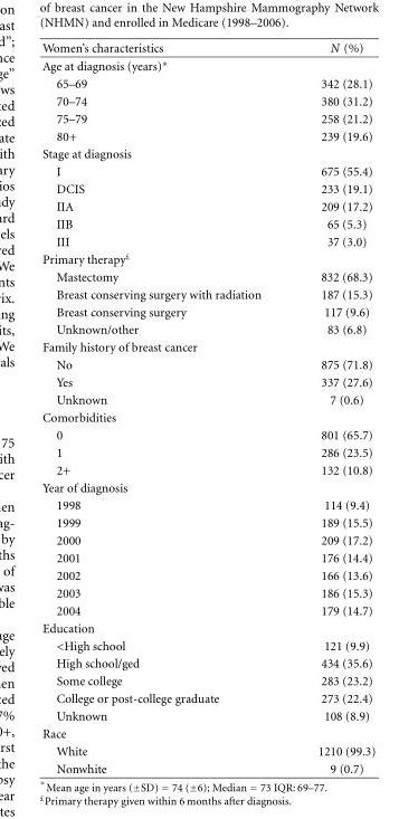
<table><thead><tr><td>Women’s characteristics</td><td>N (%)</td></tr></thead><tbody><tr><td colspan="2">Age at diagnosis (years)∗</td></tr><tr><td>65–69</td><td>342 (28.1)</td></tr><tr><td>70–74</td><td>380 (31.2)</td></tr><tr><td>75–79</td><td>258 (21.2)</td></tr><tr><td>80+</td><td>239 (19.6)</td></tr><tr><td colspan="2">Stage at diagnosis</td></tr><tr><td>I</td><td>675 (55.4)</td></tr><tr><td>DCIS</td><td>233 (19.1)</td></tr><tr><td>IIA</td><td>209 (17.2)</td></tr><tr><td>IIB</td><td>65 (5.3)</td></tr><tr><td>III</td><td>37 (3.0)</td></tr><tr><td colspan="2">Primary therapy<sup>£</sup></td></tr><tr><td>Mastectomy</td><td>832 (68.3)</td></tr><tr><td>Breast conserving surgery with radiation</td><td>187 (15.3)</td></tr><tr><td>Breast conserving surgery</td><td>117 (9.6)</td></tr><tr><td>Unknown/other</td><td>83 (6.8)</td></tr><tr><td colspan="2">Family history of breast cancer</td></tr><tr><td>No</td><td>875 (71.8)</td></tr><tr><td>Yes</td><td>337 (27.6)</td></tr><tr><td>Unknown</td><td>7 (0.6)</td></tr><tr><td colspan="2">Comorbidities</td></tr><tr><td>0</td><td>801 (65.7)</td></tr><tr><td>1</td><td>286 (23.5)</td></tr><tr><td>2+</td><td>132 (10.8)</td></tr><tr><td colspan="2">Year of diagnosis</td></tr><tr><td>1998</td><td>114 (9.4)</td></tr><tr><td>1999</td><td>189 (15.5)</td></tr><tr><td>2000</td><td>209 (17.2)</td></tr><tr><td>2001</td><td>176 (14.4)</td></tr><tr><td>2002</td><td>166 (13.6)</td></tr><tr><td>2003</td><td>186 (15.3)</td></tr><tr><td>2004</td><td>179 (14.7)</td></tr><tr><td colspan="2">Education</td></tr><tr><td>&lt;High school</td><td>121 (9.9)</td></tr><tr><td>High school/ged</td><td>434 (35.6)</td></tr><tr><td>Some college</td><td>283 (23.2)</td></tr><tr><td>College or post-college graduate</td><td>273 (22.4)</td></tr><tr><td>Unknown</td><td>108 (8.9)</td></tr><tr><td colspan="2">Race</td></tr><tr><td>White</td><td>1210 (99.3)</td></tr><tr><td>Nonwhite</td><td>9 (0.7)</td></tr></tbody></table>